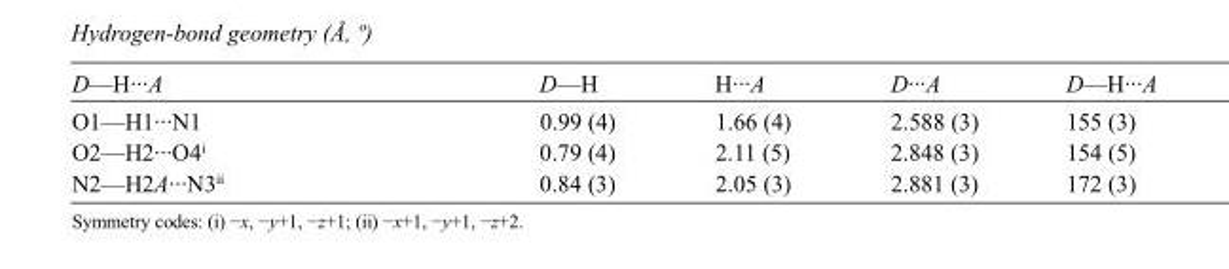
<table><tbody><tr><td>D—H···A</td><td>D—H</td><td>H···A</td><td>D···A</td><td>D—H···A</td></tr><tr><td>O1—H1···N1</td><td>0.99 (4)</td><td>1.66 (4)</td><td>2.588 (3)</td><td>155 (3)</td></tr><tr><td>O2—H2···O4<sup>i</sup></td><td>0.79 (4)</td><td>2.11 (5)</td><td>2.848 (3)</td><td>154 (5)</td></tr><tr><td>N2—H2A···N3<sup>ii</sup></td><td>0.84 (3)</td><td>2.05 (3)</td><td>2.881 (3)</td><td>172 (3)</td></tr></tbody></table>